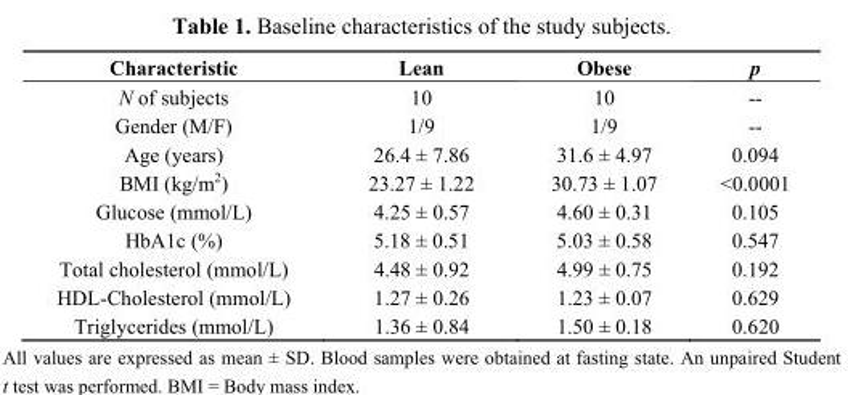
<table><thead><tr><td>Characteristic</td><td>Lean</td><td>Obese</td><td>p</td></tr></thead><tbody><tr><td>N of subjects</td><td>10</td><td>10</td><td>--</td></tr><tr><td>Gender (M/F)</td><td>1/9</td><td>1/9</td><td>--</td></tr><tr><td>Age (years)</td><td>26.4 ± 7.86</td><td>31.6 ± 4.97</td><td>0.094</td></tr><tr><td>BMI (kg/m<sup>2</sup>)</td><td>23.27 ± 1.22</td><td>30.73 ± 1.07</td><td>&lt;0.0001</td></tr><tr><td>Glucose (mmol/L)</td><td>4.25 ± 0.57</td><td>4.60 ± 0.31</td><td>0.105</td></tr><tr><td>HbA1c (%)</td><td>5.18 ± 0.51</td><td>5.03 ± 0.58</td><td>0.547</td></tr><tr><td>Total cholesterol (mmol/L)</td><td>4.48 ± 0.92</td><td>4.99 ± 0.75</td><td>0.192</td></tr><tr><td>HDL-Cholesterol (mmol/L)</td><td>1.27 ± 0.26</td><td>1.23 ± 0.07</td><td>0.629</td></tr><tr><td>Triglycerides (mmol/L)</td><td>1.36 ± 0.84</td><td>1.50 ± 0.18</td><td>0.620</td></tr></tbody></table>